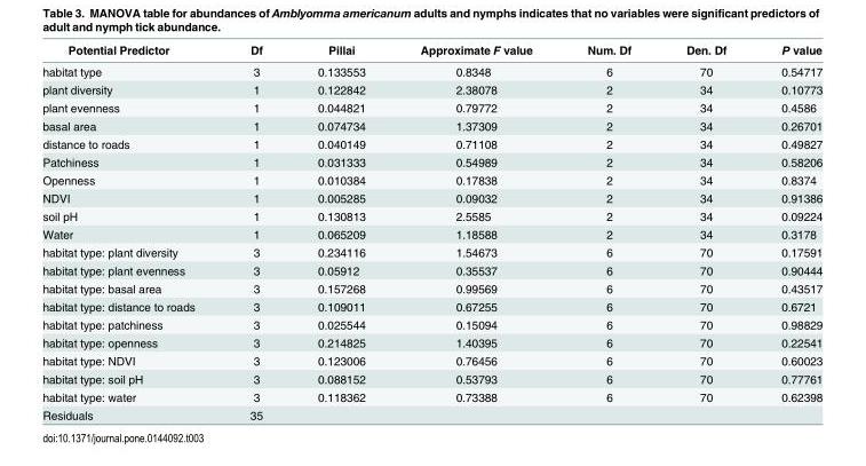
<table><thead><tr><td>Potential Predictor</td><td>Df</td><td>Pillai</td><td>Approximate F value</td><td>Num. Df</td><td>Den. Df</td><td>P value</td></tr></thead><tbody><tr><td>habitat type</td><td>3</td><td>0.133553</td><td>0.8348</td><td>6</td><td>70</td><td>0.54717</td></tr><tr><td>plant diversity</td><td>1</td><td>0.122842</td><td>2.38078</td><td>2</td><td>34</td><td>0.10773</td></tr><tr><td>plant evenness</td><td>1</td><td>0.044821</td><td>0.79772</td><td>2</td><td>34</td><td>0.4586</td></tr><tr><td>basal area</td><td>1</td><td>0.074734</td><td>1.37309</td><td>2</td><td>34</td><td>0.26701</td></tr><tr><td>distance to roads</td><td>1</td><td>0.040149</td><td>0.71108</td><td>2</td><td>34</td><td>0.49827</td></tr><tr><td>Patchiness</td><td>1</td><td>0.031333</td><td>0.54989</td><td>2</td><td>34</td><td>0.58206</td></tr><tr><td>Openness</td><td>1</td><td>0.010384</td><td>0.17838</td><td>2</td><td>34</td><td>0.8374</td></tr><tr><td>NDVI</td><td>1</td><td>0.005285</td><td>0.09032</td><td>2</td><td>34</td><td>0.91386</td></tr><tr><td>soil pH</td><td>1</td><td>0.130813</td><td>2.5585</td><td>2</td><td>34</td><td>0.09224</td></tr><tr><td>Water</td><td>1</td><td>0.065209</td><td>1.18588</td><td>2</td><td>34</td><td>0.3178</td></tr><tr><td>habitat type: plant diversity</td><td>3</td><td>0.234116</td><td>1.54673</td><td>6</td><td>70</td><td>0.17591</td></tr><tr><td>habitat type: plant evenness</td><td>3</td><td>0.05912</td><td>0.35537</td><td>6</td><td>70</td><td>0.90444</td></tr><tr><td>habitat type: basal area</td><td>3</td><td>0.157268</td><td>0.99569</td><td>6</td><td>70</td><td>0.43517</td></tr><tr><td>habitat type: distance to roads</td><td>3</td><td>0.109011</td><td>0.67255</td><td>6</td><td>70</td><td>0.6721</td></tr><tr><td>habitat type: patchiness</td><td>3</td><td>0.025544</td><td>0.15094</td><td>6</td><td>70</td><td>0.98829</td></tr><tr><td>habitat type: openness</td><td>3</td><td>0.214825</td><td>1.40395</td><td>6</td><td>70</td><td>0.22541</td></tr><tr><td>habitat type: NDVI</td><td>3</td><td>0.123006</td><td>0.76456</td><td>6</td><td>70</td><td>0.60023</td></tr><tr><td>habitat type: soil pH</td><td>3</td><td>0.088152</td><td>0.53793</td><td>6</td><td>70</td><td>0.77761</td></tr><tr><td>habitat type: water</td><td>3</td><td>0.118362</td><td>0.73388</td><td>6</td><td>70</td><td>0.62398</td></tr><tr><td>Residuals</td><td>35</td><td></td><td></td><td></td><td></td><td></td></tr></tbody></table>